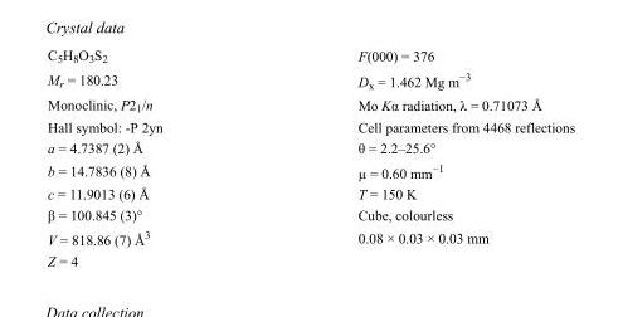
<table><tbody><tr><td>C<sub>5</sub>H<sub>8</sub>O<sub>3</sub>S<sub>2</sub></td><td>F(000) = 376</td></tr><tr><td>M<sub>r</sub> = 180.23</td><td>D<sub>x</sub> = 1.462 Mg m<sup>−3</sup></td></tr><tr><td>Monoclinic, P2<sub>1</sub>/n</td><td>Mo Kα radiation, λ = 0.71073 Å</td></tr><tr><td>Hall symbol: -P 2yn</td><td>Cell parameters from 4468 reflections</td></tr><tr><td>a = 4.7387 (2) Å</td><td>θ = 2.2–25.6°</td></tr><tr><td>b = 14.7836 (8) Å</td><td>µ = 0.60 mm<sup>−1</sup></td></tr><tr><td>c = 11.9013 (6) Å</td><td>T = 150 K</td></tr><tr><td>β = 100.845 (3)°</td><td>Cube, colourless</td></tr><tr><td>V = 818.86 (7) Å<sup>3</sup></td><td>0.08 × 0.03 × 0.03 mm</td></tr><tr><td>Z = 4</td><td></td></tr></tbody></table>